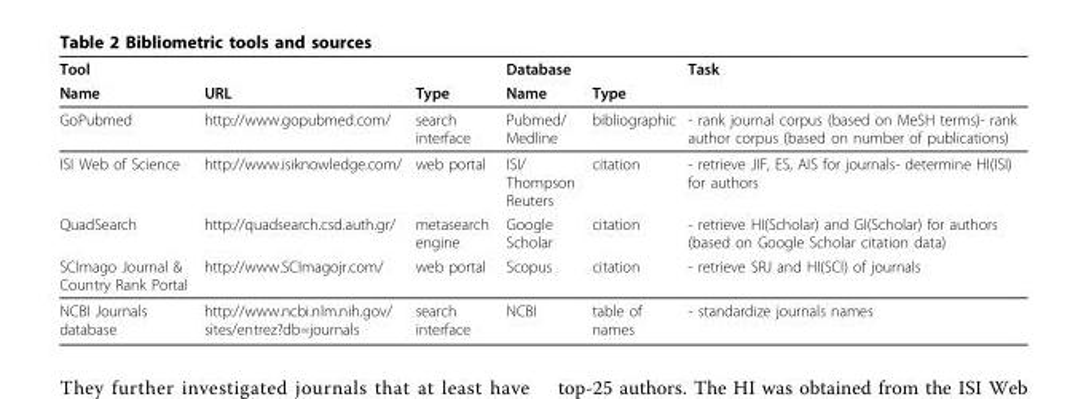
<table><thead><tr><td colspan="3">Tool</td><td colspan="2">Database</td><td rowspan="2">Task</td></tr><tr><td>Name</td><td>URL</td><td>Type</td><td>Name</td><td>Type</td></tr></thead><tbody><tr><td>GoPubmed</td><td>http://www.gopubmed.com/</td><td>search interface</td><td>Pubmed/ Medline</td><td>bibliographic</td><td>- rank journal corpus (based on MeSH terms)- rank author corpus (based on number of publications)</td></tr><tr><td>ISI Web of Science</td><td>http://www.isiknowledge.com/</td><td>web portal</td><td>ISI/ Thompson Reuters</td><td>citation</td><td>- retrieve JIF, ES, AIS for journals- determine HI(ISI) for authors</td></tr><tr><td>QuadSearch</td><td>http://quadsearch.csd.auth.gr/</td><td>metasearch engine</td><td>Google Scholar</td><td>citation</td><td>- retrieve HI(Scholar) and GI(Scholar) for authors (based on Google Scholar citation data)</td></tr><tr><td>SCImago Journal &amp; Country Rank Portal</td><td>http://www.SCImagojr.com/</td><td>web portal</td><td>Scopus</td><td>citation</td><td>- retrieve SRJ and HI(SCI) of journals</td></tr><tr><td>NCBI Journals database</td><td>http://www.ncbi.nlm.nih.gov/ sites/entrez?db=journals</td><td>search interface</td><td>NCBI</td><td>table of names</td><td>- standardize journals names</td></tr></tbody></table>